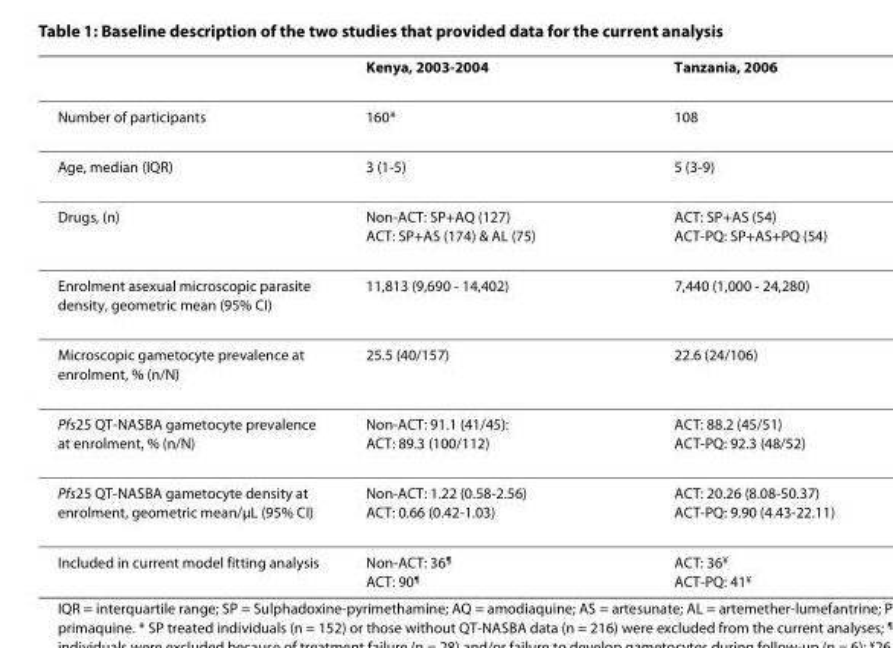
<table><thead><tr><td></td><td>Kenya, 2003-2004</td><td>Tanzania, 2006</td></tr></thead><tbody><tr><td>Number of participants</td><td>160*</td><td>108</td></tr><tr><td>Age, median (IQR)</td><td>3 (1-5)</td><td>5 (3-9)</td></tr><tr><td>Drugs, (n)</td><td>Non-ACT: SP+AQ (127) ACT: SP+AS (174) &amp; AL (75)</td><td>ACT: SP+AS (54) ACT-PQ: SP+AS+PQ (54)</td></tr><tr><td>Enrolment asexual microscopic parasite density, geometric mean (95% CI)</td><td>11,813 (9,690 - 14,402)</td><td>7,440 (1,000 - 24,280)</td></tr><tr><td>Microscopic gametocyte prevalence at enrolment, % (n/N)</td><td>25.5 (40/157)</td><td>22.6 (24/106)</td></tr><tr><td>Pfs25 QT-NASBA gametocyte prevalence at enrolment, % (n/N)</td><td>Non-ACT: 91.1 (41/45): ACT: 89.3 (100/112)</td><td>ACT: 88.2 (45/51) ACT-PQ: 92.3 (48/52)</td></tr><tr><td>Pfs25 QT-NASBA gametocyte density at enrolment, geometric mean/μL (95% CI)</td><td>Non-ACT: 1.22 (0.58-2.56) ACT: 0.66 (0.42-1.03)</td><td>ACT: 20.26 (8.08-50.37) ACT-PQ: 9.90 (4.43-22.11)</td></tr><tr><td>Included in current model fitting analysis</td><td>Non-ACT: 36<sup>¶</sup> ACT: 90<sup>¶</sup></td><td>ACT: 36<sup>¥</sup> ACT-PQ: 41<sup>¥</sup></td></tr></tbody></table>